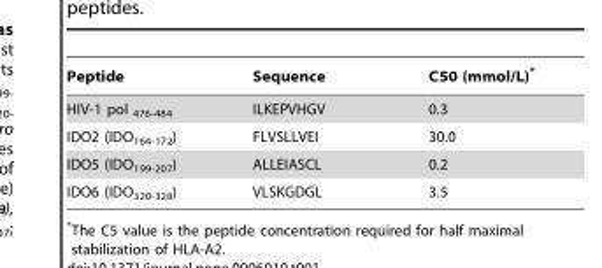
<table><thead><tr><td>Peptide</td><td>Sequence</td><td>C50 (mmol/L)*</td></tr></thead><tbody><tr><td>HIV-1 pol <sub>476-484</sub></td><td>ILKEPVHGV</td><td>0.3</td></tr><tr><td>IDO2 (IDO<sub>164-172</sub>)</td><td>FLVSLLVEI</td><td>30.0</td></tr><tr><td>IDO5 (IDO<sub>199-207</sub>)</td><td>ALLEIASCL</td><td>0.2</td></tr><tr><td>IDO6 (IDO<sub>320-328</sub>)</td><td>VLSKGDGL</td><td>3.5</td></tr></tbody></table>